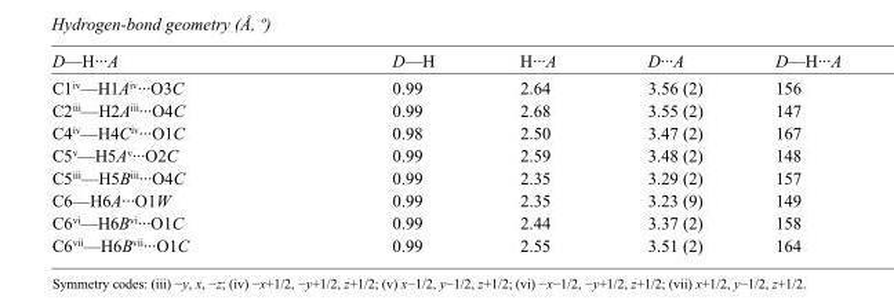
<table><tbody><tr><td>D—H···A</td><td>D—H</td><td>H···A</td><td>D···A</td><td>D—H···A</td></tr><tr><td>C1<sup>iv</sup>—H1A<sup>iv</sup>···O3C</td><td>0.99</td><td>2.64</td><td>3.56 (2)</td><td>156</td></tr><tr><td>C2<sup>iii</sup>—H2A<sup>iii</sup>···O4C</td><td>0.99</td><td>2.68</td><td>3.55 (2)</td><td>147</td></tr><tr><td>C4<sup>iv</sup>—H4C<sup>iv</sup>···O1C</td><td>0.98</td><td>2.50</td><td>3.47 (2)</td><td>167</td></tr><tr><td>C5<sup>v</sup>—H5A<sup>v</sup>···O2C</td><td>0.99</td><td>2.59</td><td>3.48 (2)</td><td>148</td></tr><tr><td>C5<sup>iii</sup>—H5B<sup>iii</sup>···O4C</td><td>0.99</td><td>2.35</td><td>3.29 (2)</td><td>157</td></tr><tr><td>C6—H6A···O1W</td><td>0.99</td><td>2.35</td><td>3.23 (9)</td><td>149</td></tr><tr><td>C6<sup>vi</sup>—H6B<sup>vi</sup>···O1C</td><td>0.99</td><td>2.44</td><td>3.37 (2)</td><td>158</td></tr><tr><td>C6<sup>vii</sup>—H6B<sup>vii</sup>···O1C</td><td>0.99</td><td>2.55</td><td>3.51 (2)</td><td>164</td></tr></tbody></table>